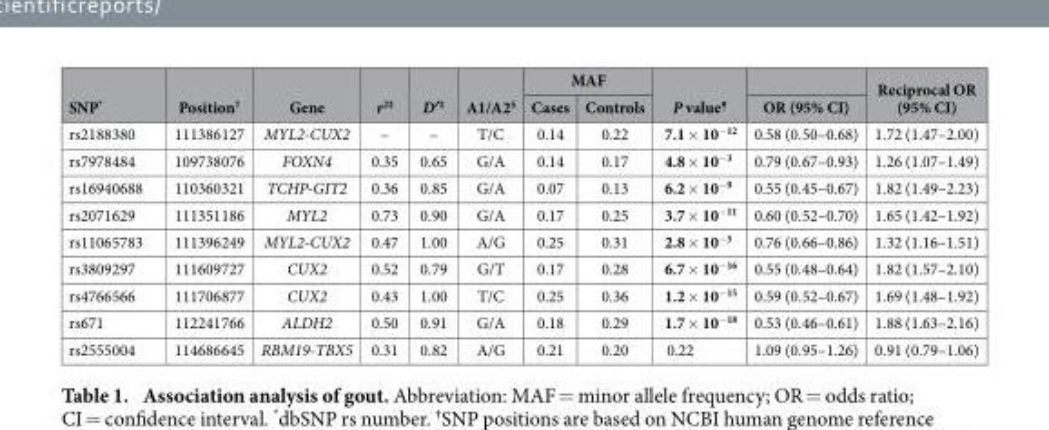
<table><thead><tr><td rowspan="2">SNP*</td><td rowspan="2">Position†</td><td rowspan="2">Gene</td><td rowspan="2">r<sup>2</sup>‡</td><td rowspan="2">D′‡</td><td rowspan="2">A1/A2§</td><td colspan="2">MAF</td><td rowspan="2">P value¶</td><td rowspan="2">OR (95% CI)</td><td rowspan="2">Reciprocal OR (95% CI)</td></tr><tr><td>Cases</td><td>Controls</td></tr></thead><tbody><tr><td>rs2188380</td><td>111386127</td><td>MYL2-CUX2</td><td>–</td><td>–</td><td>T/C</td><td>0.14</td><td>0.22</td><td>7.1 × 10<sup>−12</sup></td><td>0.58 (0.50–0.68)</td><td>1.72 (1.47–2.00)</td></tr><tr><td>rs7978484</td><td>109738076</td><td>FOXN4</td><td>0.35</td><td>0.65</td><td>G/A</td><td>0.14</td><td>0.17</td><td>4.8 × 10<sup>−3</sup></td><td>0.79 (0.67–0.93)</td><td>1.26 (1.07–1.49)</td></tr><tr><td>rs16940688</td><td>110360321</td><td>TCHP-GIT2</td><td>0.36</td><td>0.85</td><td>G/A</td><td>0.07</td><td>0.13</td><td>6.2 × 10<sup>−9</sup></td><td>0.55 (0.45–0.67)</td><td>1.82 (1.49–2.23)</td></tr><tr><td>rs2071629</td><td>111351186</td><td>MYL2</td><td>0.73</td><td>0.90</td><td>G/A</td><td>0.17</td><td>0.25</td><td>3.7 × 10<sup>−11</sup></td><td>0.60 (0.52–0.70)</td><td>1.65 (1.42–1.92)</td></tr><tr><td>rs11065783</td><td>111396249</td><td>MYL2-CUX2</td><td>0.47</td><td>1.00</td><td>A/G</td><td>0.25</td><td>0.31</td><td>2.8 × 10<sup>−5</sup></td><td>0.76 (0.66–0.86)</td><td>1.32 (1.16–1.51)</td></tr><tr><td>rs3809297</td><td>111609727</td><td>CUX2</td><td>0.52</td><td>0.79</td><td>G/T</td><td>0.17</td><td>0.28</td><td>6.7 × 10<sup>−16</sup></td><td>0.55 (0.48–0.64)</td><td>1.82 (1.57–2.10)</td></tr><tr><td>rs4766566</td><td>111706877</td><td>CUX2</td><td>0.43</td><td>1.00</td><td>T/C</td><td>0.25</td><td>0.36</td><td>1.2 × 10<sup>−15</sup></td><td>0.59 (0.52–0.67)</td><td>1.69 (1.48–1.92)</td></tr><tr><td>rs671</td><td>112241766</td><td>ALDH2</td><td>0.50</td><td>0.91</td><td>G/A</td><td>0.18</td><td>0.29</td><td>1.7 × 10<sup>−18</sup></td><td>0.53 (0.46–0.61)</td><td>1.88 (1.63–2.16)</td></tr><tr><td>rs2555004</td><td>114686645</td><td>RBM19-TBX5</td><td>0.31</td><td>0.82</td><td>A/G</td><td>0.21</td><td>0.20</td><td>0.22</td><td>1.09 (0.95–1.26)</td><td>0.91 (0.79–1.06)</td></tr></tbody></table>